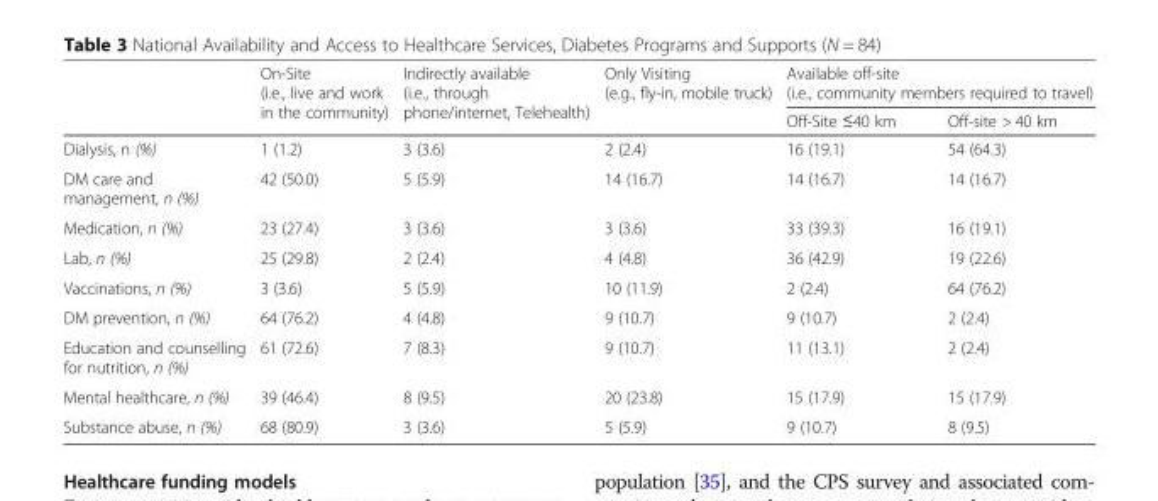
<table><thead><tr><td rowspan="2"></td><td rowspan="2">On-Site (i.e., live and work in the community)</td><td rowspan="2">Indirectly available (i.e., through phone/internet, Telehealth)</td><td rowspan="2">Only Visiting (e.g., fly-in, mobile truck)</td><td colspan="2">Available off-site (i.e., community members required to travel)</td></tr><tr><td>Off-Site ≤40 km</td><td>Off-site &gt; 40 km</td></tr></thead><tbody><tr><td>Dialysis, n (%)</td><td>1 (1.2)</td><td>3 (3.6)</td><td>2 (2.4)</td><td>16 (19.1)</td><td>54 (64.3)</td></tr><tr><td>DM care and management, n (%)</td><td>42 (50.0)</td><td>5 (5.9)</td><td>14 (16.7)</td><td>14 (16.7)</td><td>14 (16.7)</td></tr><tr><td>Medication, n (%)</td><td>23 (27.4)</td><td>3 (3.6)</td><td>3 (3.6)</td><td>33 (39.3)</td><td>16 (19.1)</td></tr><tr><td>Lab, n (%)</td><td>25 (29.8)</td><td>2 (2.4)</td><td>4 (4.8)</td><td>36 (42.9)</td><td>19 (22.6)</td></tr><tr><td>Vaccinations, n (%)</td><td>3 (3.6)</td><td>5 (5.9)</td><td>10 (11.9)</td><td>2 (2.4)</td><td>64 (76.2)</td></tr><tr><td>DM prevention, n (%)</td><td>64 (76.2)</td><td>4 (4.8)</td><td>9 (10.7)</td><td>9 (10.7)</td><td>2 (2.4)</td></tr><tr><td>Education and counselling for nutrition, n (%)</td><td>61 (72.6)</td><td>7 (8.3)</td><td>9 (10.7)</td><td>11 (13.1)</td><td>2 (2.4)</td></tr><tr><td>Mental healthcare, n (%)</td><td>39 (46.4)</td><td>8 (9.5)</td><td>20 (23.8)</td><td>15 (17.9)</td><td>15 (17.9)</td></tr><tr><td>Substance abuse, n (%)</td><td>68 (80.9)</td><td>3 (3.6)</td><td>5 (5.9)</td><td>9 (10.7)</td><td>8 (9.5)</td></tr></tbody></table>